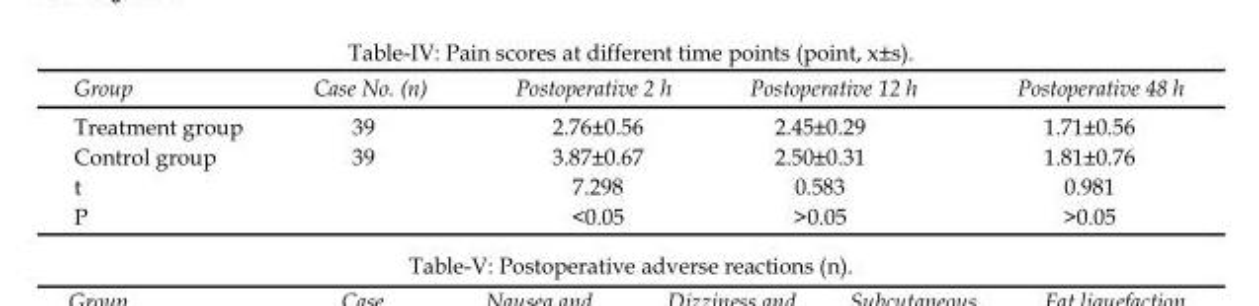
<table><thead><tr><td>Group</td><td>Case No. (n)</td><td>Postoperative 2 h</td><td>Postoperative 12 h</td><td>Postoperative 48 h</td></tr></thead><tbody><tr><td>Treatment group</td><td>39</td><td>2.76±0.56</td><td>2.45±0.29</td><td>1.71±0.56</td></tr><tr><td>Control group</td><td>39</td><td>3.87±0.67</td><td>2.50±0.31</td><td>1.81±0.76</td></tr><tr><td>t</td><td></td><td>7.298</td><td>0.583</td><td>0.981</td></tr><tr><td>P</td><td></td><td>&lt;0.05</td><td>&gt;0.05</td><td>&gt;0.05</td></tr></tbody></table>